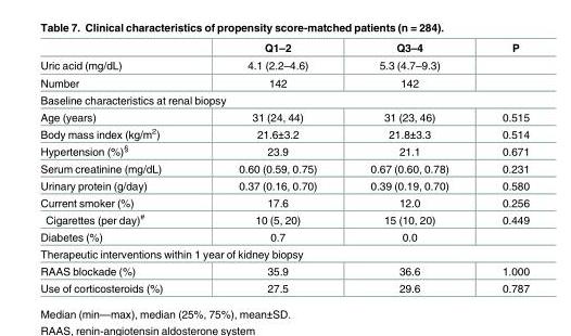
<table><thead><tr><td></td><td>Q1–2</td><td>Q3–4</td><td>P</td></tr></thead><tbody><tr><td>Uric acid (mg/dL)</td><td>4.1 (2.2–4.6)</td><td>5.3 (4.7–9.3)</td><td></td></tr><tr><td>Number</td><td>142</td><td>142</td><td></td></tr><tr><td colspan="4">Baseline characteristics at renal biopsy</td></tr><tr><td>Age (years)</td><td>31 (24, 44)</td><td>31 (23, 46)</td><td>0.515</td></tr><tr><td>Body mass index (kg/m<sup>2</sup>)</td><td>21.6±3.2</td><td>21.8±3.3</td><td>0.514</td></tr><tr><td>Hypertension (%)<sup>§</sup></td><td>23.9</td><td>21.1</td><td>0.671</td></tr><tr><td>Serum creatinine (mg/dL)</td><td>0.60 (0.59, 0.75)</td><td>0.67 (0.60, 0.78)</td><td>0.231</td></tr><tr><td>Urinary protein (g/day)</td><td>0.37 (0.16, 0.70)</td><td>0.39 (0.19, 0.70)</td><td>0.580</td></tr><tr><td>Current smoker (%)</td><td>17.6</td><td>12.0</td><td>0.256</td></tr><tr><td>Cigarettes (per day)<sup>#</sup></td><td>10 (5, 20)</td><td>15 (10, 20)</td><td>0.449</td></tr><tr><td>Diabetes (%)</td><td>0.7</td><td>0.0</td><td></td></tr><tr><td colspan="4">Therapeutic interventions within 1 year of kidney biopsy</td></tr><tr><td>RAAS blockade (%)</td><td>35.9</td><td>36.6</td><td>1.000</td></tr><tr><td>Use of corticosteroids (%)</td><td>27.5</td><td>29.6</td><td>0.787</td></tr></tbody></table>